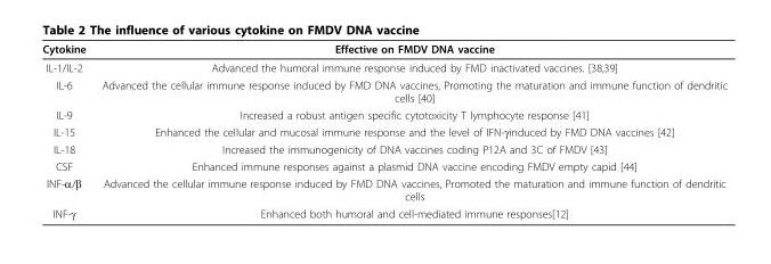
<table><thead><tr><td>Cytokine</td><td>Effective on FMDV DNA vaccine</td></tr></thead><tbody><tr><td>IL-1/IL-2</td><td>Advanced the humoral immune response induced by FMD inactivated vaccines. [38,39]</td></tr><tr><td>IL-6</td><td>Advanced the cellular immune response induced by FMD DNA vaccines, Promoting the maturation and immune function of dendritic cells [40]</td></tr><tr><td>IL-9</td><td>Increased a robust antigen specific cytotoxicity T lymphocyte response [41]</td></tr><tr><td>IL-15</td><td>Enhanced the cellular and mucosal immune response and the level of IFN-γinduced by FMD DNA vaccines [42]</td></tr><tr><td>IL-18</td><td>Increased the immunogenicity of DNA vaccines coding P12A and 3C of FMDV [43]</td></tr><tr><td>CSF</td><td>Enhanced immune responses against a plasmid DNA vaccine encoding FMDV empty capid [44]</td></tr><tr><td>INF-α/β</td><td>Advanced the cellular immune response induced by FMD DNA vaccines, Promoted the maturation and immune function of dendritic cells</td></tr><tr><td>INF-γ</td><td>Enhanced both humoral and cell-mediated immune responses[12]</td></tr></tbody></table>